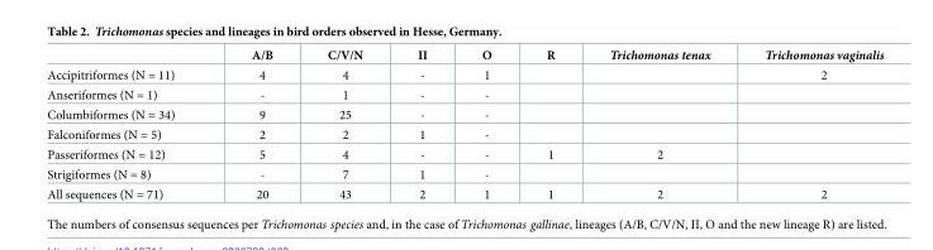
<table><thead><tr><td></td><td>A/B</td><td>C/V/N</td><td>II</td><td>O</td><td>R</td><td>Trichomonas tenax</td><td>Trichomonas vaginalis</td></tr></thead><tbody><tr><td>Accipitriformes (N = 11)</td><td>4</td><td>4</td><td>-</td><td>1</td><td></td><td></td><td>2</td></tr><tr><td>Anseriformes (N = 1)</td><td>-</td><td>1</td><td>-</td><td>-</td><td></td><td></td><td></td></tr><tr><td>Columbiformes (N = 34)</td><td>9</td><td>25</td><td>-</td><td>-</td><td></td><td></td><td></td></tr><tr><td>Falconiformes (N = 5)</td><td>2</td><td>2</td><td>1</td><td>-</td><td></td><td></td><td></td></tr><tr><td>Passeriformes (N = 12)</td><td>5</td><td>4</td><td>-</td><td>-</td><td>1</td><td>2</td><td></td></tr><tr><td>Strigiformes (N = 8)</td><td>-</td><td>7</td><td>1</td><td>-</td><td></td><td></td><td></td></tr><tr><td>All sequences (N = 71)</td><td>20</td><td>43</td><td>2</td><td>1</td><td>1</td><td>2</td><td>2</td></tr></tbody></table>